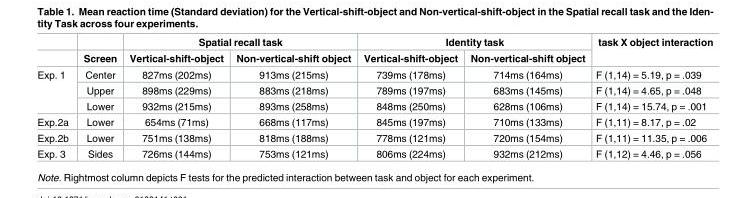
<table><thead><tr><td rowspan="2"></td><td rowspan="2">Screen</td><td colspan="2">Spatial recall task</td><td colspan="2">Identity task</td><td rowspan="2">task X object interaction</td></tr><tr><td>Vertical-shift-object</td><td>Non-vertical-shift object</td><td>Vertical-shift-object</td><td>Non-vertical-shift object</td></tr></thead><tbody><tr><td rowspan="3">Exp. 1</td><td>Center</td><td>827ms (202ms)</td><td>913ms (215ms)</td><td>739ms (178ms)</td><td>714ms (164ms)</td><td>F (1,14) = 5.19, p = .039</td></tr><tr><td>Upper</td><td>898ms (229ms)</td><td>883ms (218ms)</td><td>789ms (197ms)</td><td>683ms (145ms)</td><td>F (1,14) = 4.65, p = .048</td></tr><tr><td>Lower</td><td>932ms (215ms)</td><td>893ms (258ms)</td><td>848ms (250ms)</td><td>628ms (106ms)</td><td>F (1,14) = 15.74, p = .001</td></tr><tr><td>Exp.2a</td><td>Lower</td><td>654ms (71ms)</td><td>668ms (117ms)</td><td>845ms (197ms)</td><td>710ms (133ms)</td><td>F (1,11) = 8.17, p = .02</td></tr><tr><td>Exp.2b</td><td>Lower</td><td>751ms (138ms)</td><td>818ms (188ms)</td><td>778ms (121ms)</td><td>720ms (154ms)</td><td>F (1,11) = 11.35, p = .006</td></tr><tr><td>Exp. 3</td><td>Sides</td><td>726ms (144ms)</td><td>753ms (121ms)</td><td>806ms (224ms)</td><td>932ms (212ms)</td><td>F (1,12) = 4.46, p = .056</td></tr></tbody></table>